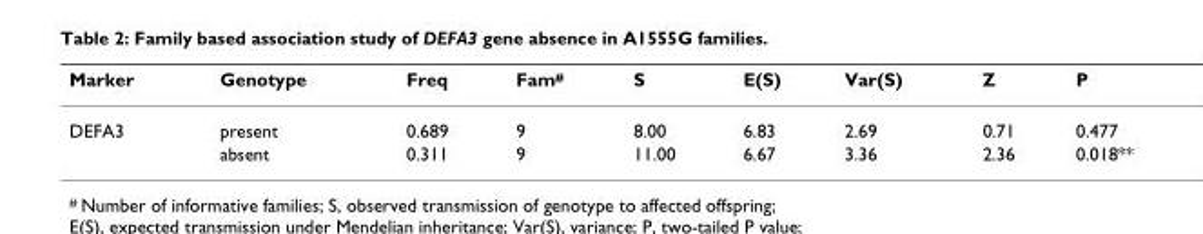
<table><thead><tr><td>Marker</td><td>Genotype</td><td>Freq</td><td>Fam<sup>#</sup></td><td>S</td><td>E(S)</td><td>Var(S)</td><td>Z</td><td>P</td></tr></thead><tbody><tr><td rowspan="2">DEFA3</td><td>present</td><td>0.689</td><td>9</td><td>8.00</td><td>6.83</td><td>2.69</td><td>0.71</td><td>0.477</td></tr><tr><td>absent</td><td>0.311</td><td>9</td><td>11.00</td><td>6.67</td><td>3.36</td><td>2.36</td><td>0.018**</td></tr></tbody></table>